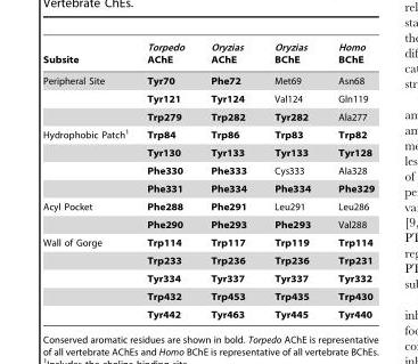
<table><thead><tr><td>Subsite</td><td>Torpedo AChE</td><td>Oryzias AChE</td><td>Oryzias BChE</td><td>Homo BChE</td></tr></thead><tbody><tr><td rowspan="3">Peripheral Site</td><td>Tyr70</td><td>Phe72</td><td>Met69</td><td>Asn68</td></tr><tr><td>Tyr121</td><td>Tyr124</td><td>Val124</td><td>Gln119</td></tr><tr><td>Trp279</td><td>Trp282</td><td>Tyr282</td><td>Ala277</td></tr><tr><td rowspan="4">Hydrophobic Patch<sup>1</sup></td><td>Trp84</td><td>Trp86</td><td>Trp83</td><td>Trp82</td></tr><tr><td>Tyr130</td><td>Tyr133</td><td>Tyr133</td><td>Tyr128</td></tr><tr><td>Phe330</td><td>Phe333</td><td>Cys333</td><td>Ala328</td></tr><tr><td>Phe331</td><td>Phe334</td><td>Phe334</td><td>Phe329</td></tr><tr><td rowspan="2">Acyl Pocket</td><td>Phe288</td><td>Phe291</td><td>Leu291</td><td>Leu286</td></tr><tr><td>Phe290</td><td>Phe293</td><td>Phe293</td><td>Val288</td></tr><tr><td rowspan="5">Wall of Gorge</td><td>Trp114</td><td>Trp117</td><td>Trp119</td><td>Trp114</td></tr><tr><td>Trp233</td><td>Trp236</td><td>Trp236</td><td>Trp231</td></tr><tr><td>Tyr334</td><td>Tyr337</td><td>Tyr337</td><td>Tyr332</td></tr><tr><td>Trp432</td><td>Trp453</td><td>Trp435</td><td>Trp430</td></tr><tr><td>Tyr442</td><td>Tyr463</td><td>Tyr445</td><td>Tyr440</td></tr></tbody></table>